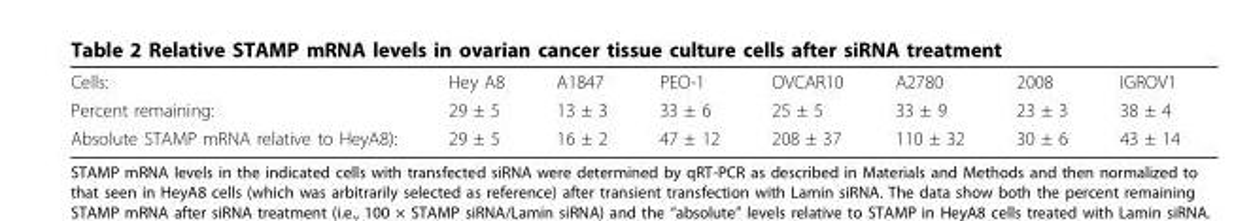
<table><tbody><tr><td>Cells:</td><td>Hey A8</td><td>A1847</td><td>PEO-1</td><td>OVCAR10</td><td>A2780</td><td>2008</td><td>IGROV1</td></tr><tr><td>Percent remaining:</td><td>29 ± 5</td><td>13 ± 3</td><td>33 ± 6</td><td>25 ± 5</td><td>33 ± 9</td><td>23 ± 3</td><td>38 ± 4</td></tr><tr><td>Absolute STAMP mRNA relative to HeyA8):</td><td>29 ± 5</td><td>16 ± 2</td><td>47 ± 12</td><td>208 ± 37</td><td>110 ± 32</td><td>30 ± 6</td><td>43 ± 14</td></tr></tbody></table>